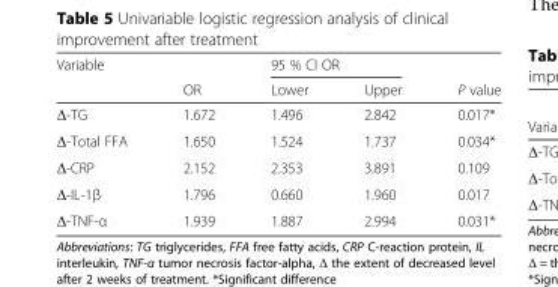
<table><thead><tr><td rowspan="2">Variable</td><td rowspan="2">OR</td><td colspan="2">95 % CI OR</td><td rowspan="2">P value</td></tr><tr><td>Lower</td><td>Upper</td></tr></thead><tbody><tr><td>Δ-TG</td><td>1.672</td><td>1.496</td><td>2.842</td><td>0.017*</td></tr><tr><td>Δ-Total FFA</td><td>1.650</td><td>1.524</td><td>1.737</td><td>0.034*</td></tr><tr><td>Δ-CRP</td><td>2.152</td><td>2.353</td><td>3.891</td><td>0.109</td></tr><tr><td>Δ-IL-1β</td><td>1.796</td><td>0.660</td><td>1.960</td><td>0.017</td></tr><tr><td>Δ-TNF-α</td><td>1.939</td><td>1.887</td><td>2.994</td><td>0.031*</td></tr></tbody></table>